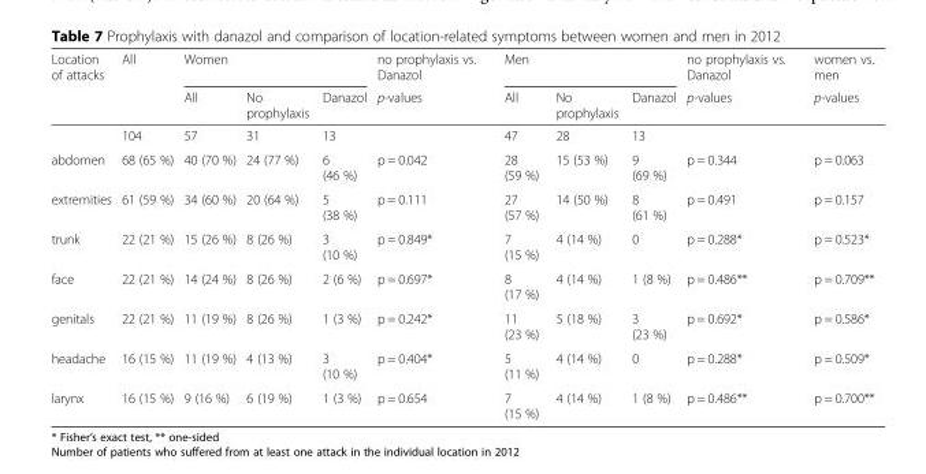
<table><thead><tr><td rowspan="2">Location of attacks</td><td rowspan="2">All</td><td colspan="3">Women</td><td rowspan="2">no prophylaxis vs. Danazol p-values</td><td colspan="3">Men</td><td rowspan="2">no prophylaxis vs. Danazol p-values</td><td rowspan="2">women vs. men p-values</td></tr><tr><td>All</td><td>No prophylaxis</td><td>Danazol</td><td>All</td><td>No prophylaxis</td><td>Danazol</td></tr></thead><tbody><tr><td></td><td>104</td><td>57</td><td>31</td><td>13</td><td></td><td>47</td><td>28</td><td>13</td><td></td><td></td></tr><tr><td>abdomen</td><td>68 (65 %)</td><td>40 (70 %)</td><td>24 (77 %)</td><td>6 (46 %)</td><td>p = 0.042</td><td>28 (59 %)</td><td>15 (53 %)</td><td>9 (69 %)</td><td>p = 0.344</td><td>p = 0.063</td></tr><tr><td>extremities</td><td>61 (59 %)</td><td>34 (60 %)</td><td>20 (64 %)</td><td>5 (38 %)</td><td>p = 0.111</td><td>27 (57 %)</td><td>14 (50 %)</td><td>8 (61 %)</td><td>p = 0.491</td><td>p = 0.157</td></tr><tr><td>trunk</td><td>22 (21 %)</td><td>15 (26 %)</td><td>8 (26 %)</td><td>3 (10 %)</td><td>p = 0.849*</td><td>7 (15 %)</td><td>4 (14 %)</td><td>0</td><td>p = 0.288*</td><td>p = 0.523*</td></tr><tr><td>face</td><td>22 (21 %)</td><td>14 (24 %)</td><td>8 (26 %)</td><td>2 (6 %)</td><td>p = 0.697*</td><td>8 (17 %)</td><td>4 (14 %)</td><td>1 (8 %)</td><td>p = 0.486**</td><td>p = 0.709**</td></tr><tr><td>genitals</td><td>22 (21 %)</td><td>11 (19 %)</td><td>8 (26 %)</td><td>1 (3 %)</td><td>p = 0.242*</td><td>11 (23 %)</td><td>5 (18 %)</td><td>3 (23 %)</td><td>p = 0.692*</td><td>p = 0.586*</td></tr><tr><td>headache</td><td>16 (15 %)</td><td>11 (19 %)</td><td>4 (13 %)</td><td>3 (10 %)</td><td>p = 0.404*</td><td>5 (11 %)</td><td>4 (14 %)</td><td>0</td><td>p = 0.288*</td><td>p = 0.509*</td></tr><tr><td>larynx</td><td>16 (15 %)</td><td>9 (16 %)</td><td>6 (19 %)</td><td>1 (3 %)</td><td>p = 0.654</td><td>7 (15 %)</td><td>4 (14 %)</td><td>1 (8 %)</td><td>p = 0.486**</td><td>p = 0.700**</td></tr></tbody></table>